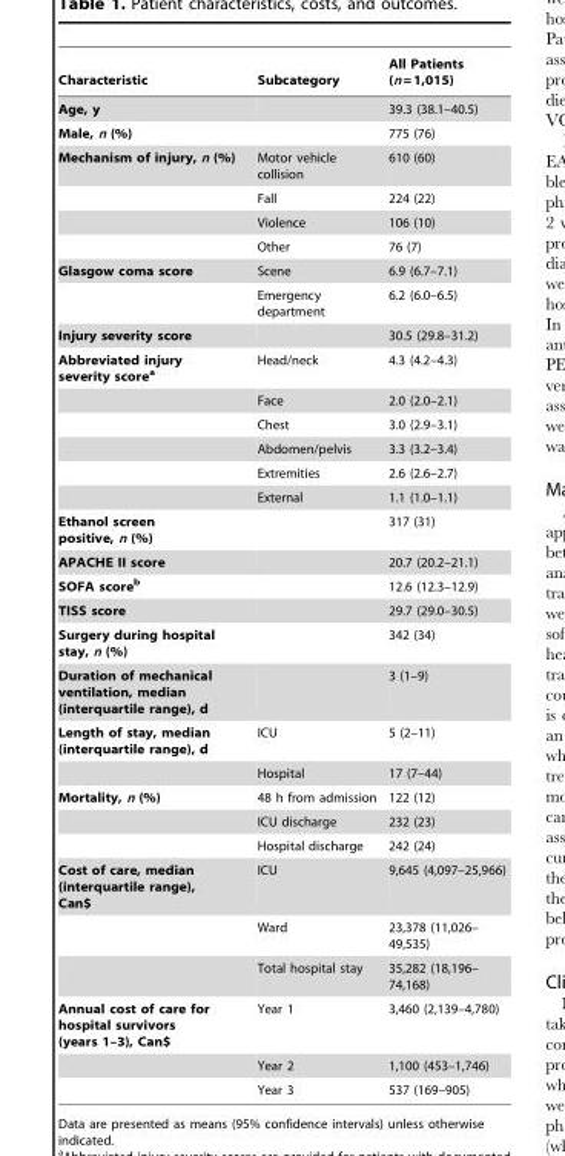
<table><thead><tr><td>Characteristic</td><td>Subcategory</td><td>All Patients (n = 1,015)</td></tr></thead><tbody><tr><td>Age, y</td><td></td><td>39.3 (38.1–40.5)</td></tr><tr><td>Male, n (%)</td><td></td><td>775 (76)</td></tr><tr><td rowspan="4">Mechanism of injury, n (%)</td><td>Motor vehicle collision</td><td>610 (60)</td></tr><tr><td>Fall</td><td>224 (22)</td></tr><tr><td>Violence</td><td>106 (10)</td></tr><tr><td>Other</td><td>76 (7)</td></tr><tr><td rowspan="2">Glasgow coma score</td><td>Scene</td><td>6.9 (6.7–7.1)</td></tr><tr><td>Emergency department</td><td>6.2 (6.0–6.5)</td></tr><tr><td>Injury severity score</td><td></td><td>30.5 (29.8–31.2)</td></tr><tr><td rowspan="6">Abbreviated injury severity scorea</td><td>Head/neck</td><td>4.3 (4.2–4.3)</td></tr><tr><td>Face</td><td>2.0 (2.0–2.1)</td></tr><tr><td>Chest</td><td>3.0 (2.9–3.1)</td></tr><tr><td>Abdomen/pelvis</td><td>3.3 (3.2–3.4)</td></tr><tr><td>Extremities</td><td>2.6 (2.6–2.7)</td></tr><tr><td>External</td><td>1.1 (1.0–1.1)</td></tr><tr><td>Ethanol screen positive, n (%)</td><td></td><td>317 (31)</td></tr><tr><td>APACHE II score</td><td></td><td>20.7 (20.2–21.1)</td></tr><tr><td>SOFA scoreb</td><td></td><td>12.6 (12.3–12.9)</td></tr><tr><td>TISS score</td><td></td><td>29.7 (29.0–30.5)</td></tr><tr><td>Surgery during hospital stay, n (%)</td><td></td><td>342 (34)</td></tr><tr><td>Duration of mechanical ventilation, median (interquartile range), d</td><td></td><td>3 (1–9)</td></tr><tr><td rowspan="2">Length of stay, median (interquartile range), d</td><td>ICU</td><td>5 (2–11)</td></tr><tr><td>Hospital</td><td>17 (7–44)</td></tr><tr><td rowspan="3">Mortality, n (%)</td><td>48 h from admission</td><td>122 (12)</td></tr><tr><td>ICU discharge</td><td>232 (23)</td></tr><tr><td>Hospital discharge</td><td>242 (24)</td></tr><tr><td rowspan="3">Cost of care, median (interquartile range), Can$</td><td>ICU</td><td>9,645 (4,097–25,966)</td></tr><tr><td>Ward</td><td>23,378 (11,026– 49,535)</td></tr><tr><td>Total hospital stay</td><td>35,282 (18,196– 74,168)</td></tr><tr><td rowspan="3">Annual cost of care for hospital survivors (years 1–3), Can$</td><td>Year 1</td><td>3,460 (2,139–4,780)</td></tr><tr><td>Year 2</td><td>1,100 (453–1,746)</td></tr><tr><td>Year 3</td><td>537 (169–905)</td></tr></tbody></table>